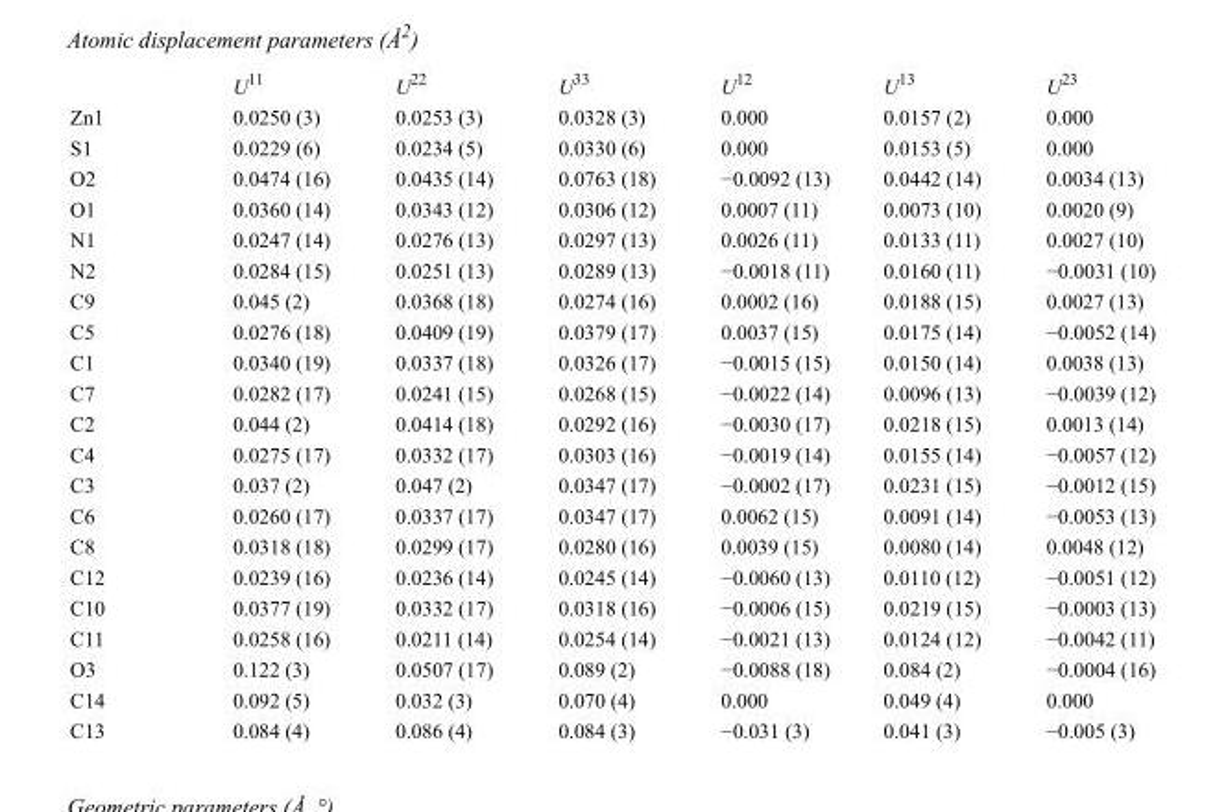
<table><thead><tr><td></td><td>U<sup>11</sup></td><td>U<sup>22</sup></td><td>U<sup>33</sup></td><td>U<sup>12</sup></td><td>U<sup>13</sup></td><td>U<sup>23</sup></td></tr></thead><tbody><tr><td>Zn1</td><td>0.0250 (3)</td><td>0.0253 (3)</td><td>0.0328 (3)</td><td>0.000</td><td>0.0157 (2)</td><td>0.000</td></tr><tr><td>S1</td><td>0.0229 (6)</td><td>0.0234 (5)</td><td>0.0330 (6)</td><td>0.000</td><td>0.0153 (5)</td><td>0.000</td></tr><tr><td>O2</td><td>0.0474 (16)</td><td>0.0435 (14)</td><td>0.0763 (18)</td><td>−0.0092 (13)</td><td>0.0442 (14)</td><td>0.0034 (13)</td></tr><tr><td>O1</td><td>0.0360 (14)</td><td>0.0343 (12)</td><td>0.0306 (12)</td><td>0.0007 (11)</td><td>0.0073 (10)</td><td>0.0020 (9)</td></tr><tr><td>N1</td><td>0.0247 (14)</td><td>0.0276 (13)</td><td>0.0297 (13)</td><td>0.0026 (11)</td><td>0.0133 (11)</td><td>0.0027 (10)</td></tr><tr><td>N2</td><td>0.0284 (15)</td><td>0.0251 (13)</td><td>0.0289 (13)</td><td>−0.0018 (11)</td><td>0.0160 (11)</td><td>−0.0031 (10)</td></tr><tr><td>C9</td><td>0.045 (2)</td><td>0.0368 (18)</td><td>0.0274 (16)</td><td>0.0002 (16)</td><td>0.0188 (15)</td><td>0.0027 (13)</td></tr><tr><td>C5</td><td>0.0276 (18)</td><td>0.0409 (19)</td><td>0.0379 (17)</td><td>0.0037 (15)</td><td>0.0175 (14)</td><td>−0.0052 (14)</td></tr><tr><td>C1</td><td>0.0340 (19)</td><td>0.0337 (18)</td><td>0.0326 (17)</td><td>−0.0015 (15)</td><td>0.0150 (14)</td><td>0.0038 (13)</td></tr><tr><td>C7</td><td>0.0282 (17)</td><td>0.0241 (15)</td><td>0.0268 (15)</td><td>−0.0022 (14)</td><td>0.0096 (13)</td><td>−0.0039 (12)</td></tr><tr><td>C2</td><td>0.044 (2)</td><td>0.0414 (18)</td><td>0.0292 (16)</td><td>−0.0030 (17)</td><td>0.0218 (15)</td><td>0.0013 (14)</td></tr><tr><td>C4</td><td>0.0275 (17)</td><td>0.0332 (17)</td><td>0.0303 (16)</td><td>−0.0019 (14)</td><td>0.0155 (14)</td><td>−0.0057 (12)</td></tr><tr><td>C3</td><td>0.037 (2)</td><td>0.047 (2)</td><td>0.0347 (17)</td><td>−0.0002 (17)</td><td>0.0231 (15)</td><td>−0.0012 (15)</td></tr><tr><td>C6</td><td>0.0260 (17)</td><td>0.0337 (17)</td><td>0.0347 (17)</td><td>0.0062 (15)</td><td>0.0091 (14)</td><td>−0.0053 (13)</td></tr><tr><td>C8</td><td>0.0318 (18)</td><td>0.0299 (17)</td><td>0.0280 (16)</td><td>0.0039 (15)</td><td>0.0080 (14)</td><td>0.0048 (12)</td></tr><tr><td>C12</td><td>0.0239 (16)</td><td>0.0236 (14)</td><td>0.0245 (14)</td><td>−0.0060 (13)</td><td>0.0110 (12)</td><td>−0.0051 (12)</td></tr><tr><td>C10</td><td>0.0377 (19)</td><td>0.0332 (17)</td><td>0.0318 (16)</td><td>−0.0006 (15)</td><td>0.0219 (15)</td><td>−0.0003 (13)</td></tr><tr><td>C11</td><td>0.0258 (16)</td><td>0.0211 (14)</td><td>0.0254 (14)</td><td>−0.0021 (13)</td><td>0.0124 (12)</td><td>−0.0042 (11)</td></tr><tr><td>O3</td><td>0.122 (3)</td><td>0.0507 (17)</td><td>0.089 (2)</td><td>−0.0088 (18)</td><td>0.084 (2)</td><td>−0.0004 (16)</td></tr><tr><td>C14</td><td>0.092 (5)</td><td>0.032 (3)</td><td>0.070 (4)</td><td>0.000</td><td>0.049 (4)</td><td>0.000</td></tr><tr><td>C13</td><td>0.084 (4)</td><td>0.086 (4)</td><td>0.084 (3)</td><td>−0.031 (3)</td><td>0.041 (3)</td><td>−0.005 (3)</td></tr></tbody></table>